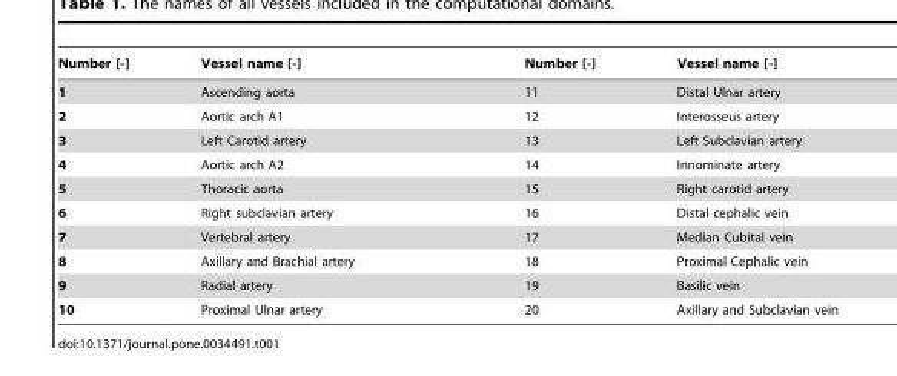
<table><thead><tr><td>Number [-]</td><td>Vessel name [-]</td><td>Number [-]</td><td>Vessel name [-]</td></tr></thead><tbody><tr><td>1</td><td>Ascending aorta</td><td>11</td><td>Distal Ulnar artery</td></tr><tr><td>2</td><td>Aortic arch A1</td><td>12</td><td>Interosseus artery</td></tr><tr><td>3</td><td>Left Carotid artery</td><td>13</td><td>Left Subclavian artery</td></tr><tr><td>4</td><td>Aortic arch A2</td><td>14</td><td>Innominate artery</td></tr><tr><td>5</td><td>Thoracic aorta</td><td>15</td><td>Right carotid artery</td></tr><tr><td>6</td><td>Right subclavian artery</td><td>16</td><td>Distal cephalic vein</td></tr><tr><td>7</td><td>Vertebral artery</td><td>17</td><td>Median Cubital vein</td></tr><tr><td>8</td><td>Axillary and Brachial artery</td><td>18</td><td>Proximal Cephalic vein</td></tr><tr><td>9</td><td>Radial artery</td><td>19</td><td>Basilic vein</td></tr><tr><td>10</td><td>Proximal Ulnar artery</td><td>20</td><td>Axillary and Subclavian vein</td></tr></tbody></table>